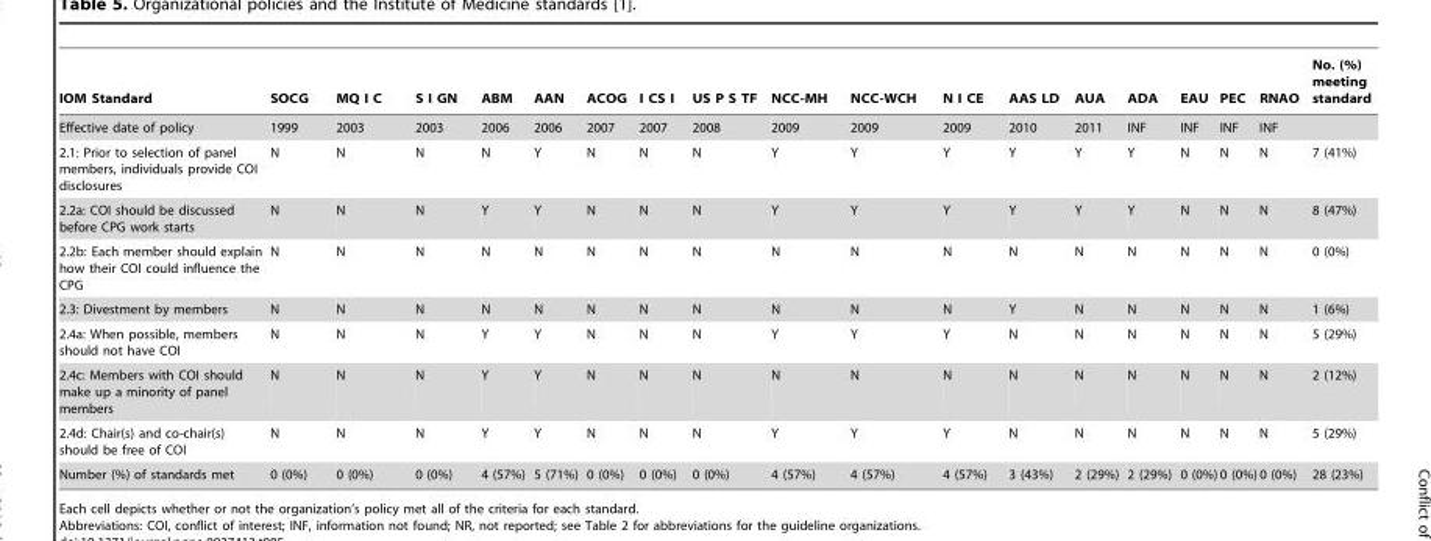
<table><thead><tr><td>IOM Standard</td><td>SOCG</td><td>MQ I C</td><td>S I GN</td><td>ABM</td><td>AAN</td><td>ACOG</td><td>I CS I</td><td>US P S TF</td><td>NCC-MH</td><td>NCC-WCH</td><td>N I CE</td><td>AAS LD</td><td>AUA</td><td>ADA</td><td>EAU</td><td>PEC</td><td>RNAO</td><td>No. (%) meeting standard</td></tr></thead><tbody><tr><td>Effective date of policy</td><td>1999</td><td>2003</td><td>2003</td><td>2006</td><td>2006</td><td>2007</td><td>2007</td><td>2008</td><td>2009</td><td>2009</td><td>2009</td><td>2010</td><td>2011</td><td>INF</td><td>INF</td><td>INF</td><td>INF</td><td></td></tr><tr><td>2.1: Prior to selection of panel members, individuals provide COI disclosures</td><td>N</td><td>N</td><td>N</td><td>N</td><td>Y</td><td>N</td><td>N</td><td>N</td><td>Y</td><td>Y</td><td>Y</td><td>Y</td><td>Y</td><td>Y</td><td>N</td><td>N</td><td>N</td><td>7 (41%)</td></tr><tr><td>2.2a: COI should be discussed before CPG work starts</td><td>N</td><td>N</td><td>N</td><td>Y</td><td>Y</td><td>N</td><td>N</td><td>N</td><td>Y</td><td>Y</td><td>Y</td><td>Y</td><td>Y</td><td>Y</td><td>N</td><td>N</td><td>N</td><td>8 (47%)</td></tr><tr><td>2.2b: Each member should explain how their COI could influence the CPG</td><td>N</td><td>N</td><td>N</td><td>N</td><td>N</td><td>N</td><td>N</td><td>N</td><td>N</td><td>N</td><td>N</td><td>N</td><td>N</td><td>N</td><td>N</td><td>N</td><td>N</td><td>0 (0%)</td></tr><tr><td>2.3: Divestment by members</td><td>N</td><td>N</td><td>N</td><td>N</td><td>N</td><td>N</td><td>N</td><td>N</td><td>N</td><td>N</td><td>N</td><td>Y</td><td>N</td><td>N</td><td>N</td><td>N</td><td>N</td><td>1 (6%)</td></tr><tr><td>2.4a: When possible, members should not have COI</td><td>N</td><td>N</td><td>N</td><td>Y</td><td>Y</td><td>N</td><td>N</td><td>N</td><td>Y</td><td>Y</td><td>Y</td><td>N</td><td>N</td><td>N</td><td>N</td><td>N</td><td>N</td><td>5 (29%)</td></tr><tr><td>2.4c: Members with COI should make up a minority of panel members</td><td>N</td><td>N</td><td>N</td><td>Y</td><td>Y</td><td>N</td><td>N</td><td>N</td><td>N</td><td>N</td><td>N</td><td>N</td><td>N</td><td>N</td><td>N</td><td>N</td><td>N</td><td>2 (12%)</td></tr><tr><td>2.4d: Chair(s) and co-chair(s) should be free of COI</td><td>N</td><td>N</td><td>N</td><td>Y</td><td>Y</td><td>N</td><td>N</td><td>N</td><td>Y</td><td>Y</td><td>Y</td><td>N</td><td>N</td><td>N</td><td>N</td><td>N</td><td>N</td><td>5 (29%)</td></tr><tr><td>Number (%) of standards met</td><td>0 (0%)</td><td>0 (0%)</td><td>0 (0%)</td><td>4 (57%)</td><td>5 (71%)</td><td>0 (0%)</td><td>0 (0%)</td><td>0 (0%)</td><td>4 (57%)</td><td>4 (57%)</td><td>4 (57%)</td><td>3 (43%)</td><td>2 (29%)</td><td>2 (29%)</td><td>0 (0%)</td><td>0 (0%)</td><td>0 (0%)</td><td>28 (23%)</td></tr></tbody></table>